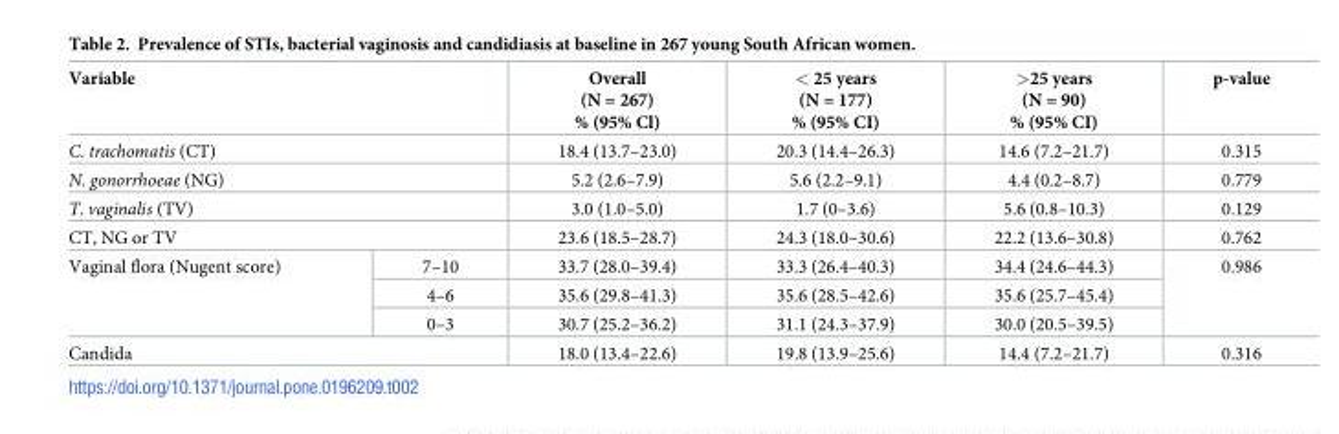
<table><thead><tr><td colspan="2">Variable</td><td>Overall (N = 267) % (95% Cl)</td><td>&lt; 25 years (N = 177) % (95% CI)</td><td>&gt;25 years (N = 90) % (95% CI)</td><td>p-value</td></tr></thead><tbody><tr><td colspan="2">C. trachomatis (CT)</td><td>18.4 (13.7–23.0)</td><td>20.3 (14.4–26.3)</td><td>14.6 (7.2–21.7)</td><td>0.315</td></tr><tr><td colspan="2">N. gonorrhoeae (NG)</td><td>5.2 (2.6–7.9)</td><td>5.6 (2.2–9.1)</td><td>4.4 (0.2–8.7)</td><td>0.779</td></tr><tr><td colspan="2">T. vaginalis (TV)</td><td>3.0 (1.0–5.0)</td><td>1.7 (0–3.6)</td><td>5.6 (0.8–10.3)</td><td>0.129</td></tr><tr><td colspan="2">CT, NG or TV</td><td>23.6 (18.5–28.7)</td><td>24.3 (18.0–30.6)</td><td>22.2 (13.6–30.8)</td><td>0.762</td></tr><tr><td rowspan="3">Vaginal flora (Nugent score)</td><td>7–10</td><td>33.7 (28.0–39.4)</td><td>33.3 (26.4–40.3)</td><td>34.4 (24.6–44.3)</td><td rowspan="3">0.986</td></tr><tr><td>4–6</td><td>35.6 (29.8–41.3)</td><td>35.6 (28.5–42.6)</td><td>35.6 (25.7–45.4)</td></tr><tr><td>0–3</td><td>30.7 (25.2–36.2)</td><td>31.1 (24.3–37.9)</td><td>30.0 (20.5–39.5)</td></tr><tr><td colspan="2">Candida</td><td>18.0 (13.4–22.6)</td><td>19.8 (13.9–25.6)</td><td>14.4 (7.2–21.7)</td><td>0.316</td></tr></tbody></table>